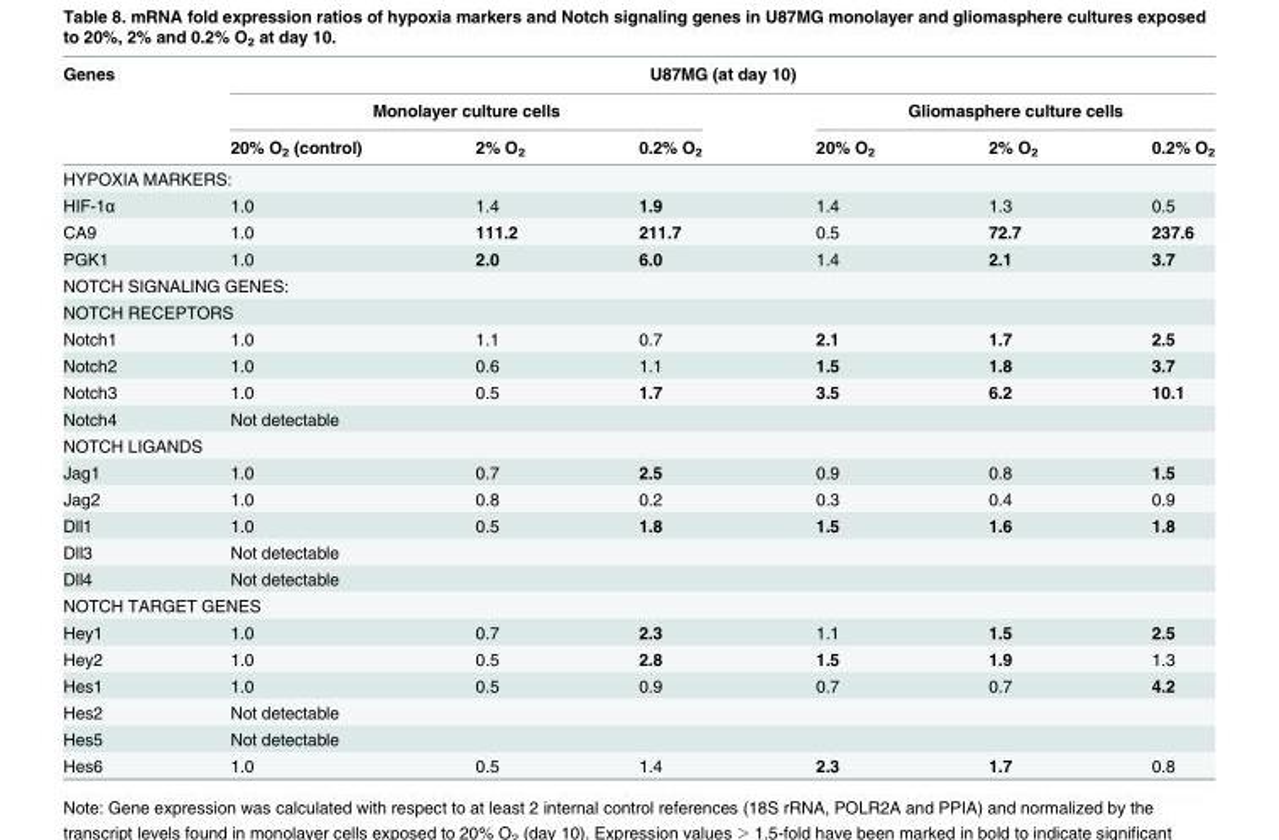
<table><thead><tr><td rowspan="3">Genes</td><td colspan="6">U87MG (at day 10)</td></tr><tr><td colspan="3">Monolayer culture cells</td><td colspan="3">Gliomasphere culture cells</td></tr><tr><td>20% O<sub>2</sub> (control)</td><td>2% O<sub>2</sub></td><td>0.2% O<sub>2</sub></td><td>20% O<sub>2</sub></td><td>2% O<sub>2</sub></td><td>0.2% O<sub>2</sub></td></tr></thead><tbody><tr><td colspan="7">HYPOXIA MARKERS:</td></tr><tr><td>HIF-1α</td><td>1.0</td><td>1.4</td><td>1.9</td><td>1.4</td><td>1.3</td><td>0.5</td></tr><tr><td>CA9</td><td>1.0</td><td>111.2</td><td>211.7</td><td>0.5</td><td>72.7</td><td>237.6</td></tr><tr><td>PGK1</td><td>1.0</td><td>2.0</td><td>6.0</td><td>1.4</td><td>2.1</td><td>3.7</td></tr><tr><td colspan="7">NOTCH SIGNALING GENES:</td></tr><tr><td colspan="7">NOTCH RECEPTORS</td></tr><tr><td>Notch1</td><td>1.0</td><td>1.1</td><td>0.7</td><td>2.1</td><td>1.7</td><td>2.5</td></tr><tr><td>Notch2</td><td>1.0</td><td>0.6</td><td>1.1</td><td>1.5</td><td>1.8</td><td>3.7</td></tr><tr><td>Notch3</td><td>1.0</td><td>0.5</td><td>1.7</td><td>3.5</td><td>6.2</td><td>10.1</td></tr><tr><td>Notch4</td><td colspan="6">Not detectable</td></tr><tr><td colspan="7">NOTCH LIGANDS</td></tr><tr><td>Jag1</td><td>1.0</td><td>0.7</td><td>2.5</td><td>0.9</td><td>0.8</td><td>1.5</td></tr><tr><td>Jag2</td><td>1.0</td><td>0.8</td><td>0.2</td><td>0.3</td><td>0.4</td><td>0.9</td></tr><tr><td>Dll1</td><td>1.0</td><td>0.5</td><td>1.8</td><td>1.5</td><td>1.6</td><td>1.8</td></tr><tr><td>Dll3</td><td colspan="6">Not detectable</td></tr><tr><td>Dll4</td><td colspan="6">Not detectable</td></tr><tr><td colspan="7">NOTCH TARGET GENES</td></tr><tr><td>Hey1</td><td>1.0</td><td>0.7</td><td>2.3</td><td>1.1</td><td>1.5</td><td>2.5</td></tr><tr><td>Hey2</td><td>1.0</td><td>0.5</td><td>2.8</td><td>1.5</td><td>1.9</td><td>1.3</td></tr><tr><td>Hes1</td><td>1.0</td><td>0.5</td><td>0.9</td><td>0.7</td><td>0.7</td><td>4.2</td></tr><tr><td>Hes2</td><td colspan="6">Not detectable</td></tr><tr><td>Hes5</td><td colspan="6">Not detectable</td></tr><tr><td>Hes6</td><td>1.0</td><td>0.5</td><td>1.4</td><td>2.3</td><td>1.7</td><td>0.8</td></tr></tbody></table>